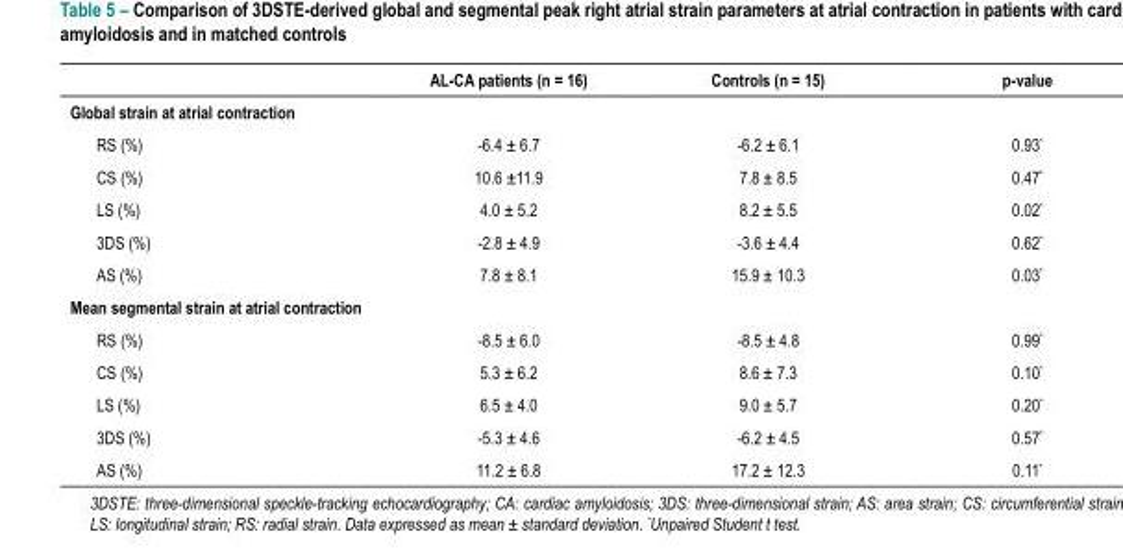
<table><thead><tr><td></td><td>AL-CA patients (n = 16)</td><td>Controls (n = 15)</td><td>p-value</td></tr></thead><tbody><tr><td colspan="4">Global strain at atrial contraction</td></tr><tr><td>RS (%)</td><td>-6.4 ± 6.7</td><td>-6.2 ± 6.1</td><td>0.93*</td></tr><tr><td>CS (%)</td><td>10.6 ±11.9</td><td>7.8 ± 8.5</td><td>0.47*</td></tr><tr><td>LS (%)</td><td>4.0 ± 5.2</td><td>8.2 ± 5.5</td><td>0.02*</td></tr><tr><td>3DS (%)</td><td>-2.8 ± 4.9</td><td>-3.6 ± 4.4</td><td>0.62*</td></tr><tr><td>AS (%)</td><td>7.8 ± 8.1</td><td>15.9 ± 10.3</td><td>0.03*</td></tr><tr><td colspan="4">Mean segmental strain at atrial contraction</td></tr><tr><td>RS (%)</td><td>-8.5 ± 6.0</td><td>-8.5 ± 4.8</td><td>0.99*</td></tr><tr><td>CS (%)</td><td>5.3 ± 6.2</td><td>8.6 ± 7.3</td><td>0.10*</td></tr><tr><td>LS (%)</td><td>6.5 ± 4.0</td><td>9.0 ± 5.7</td><td>0.20*</td></tr><tr><td>3DS (%)</td><td>-5.3 ± 4.6</td><td>-6.2 ± 4.5</td><td>0.57*</td></tr><tr><td>AS (%)</td><td>11.2 ± 6.8</td><td>17.2 ± 12.3</td><td>0.11*</td></tr></tbody></table>